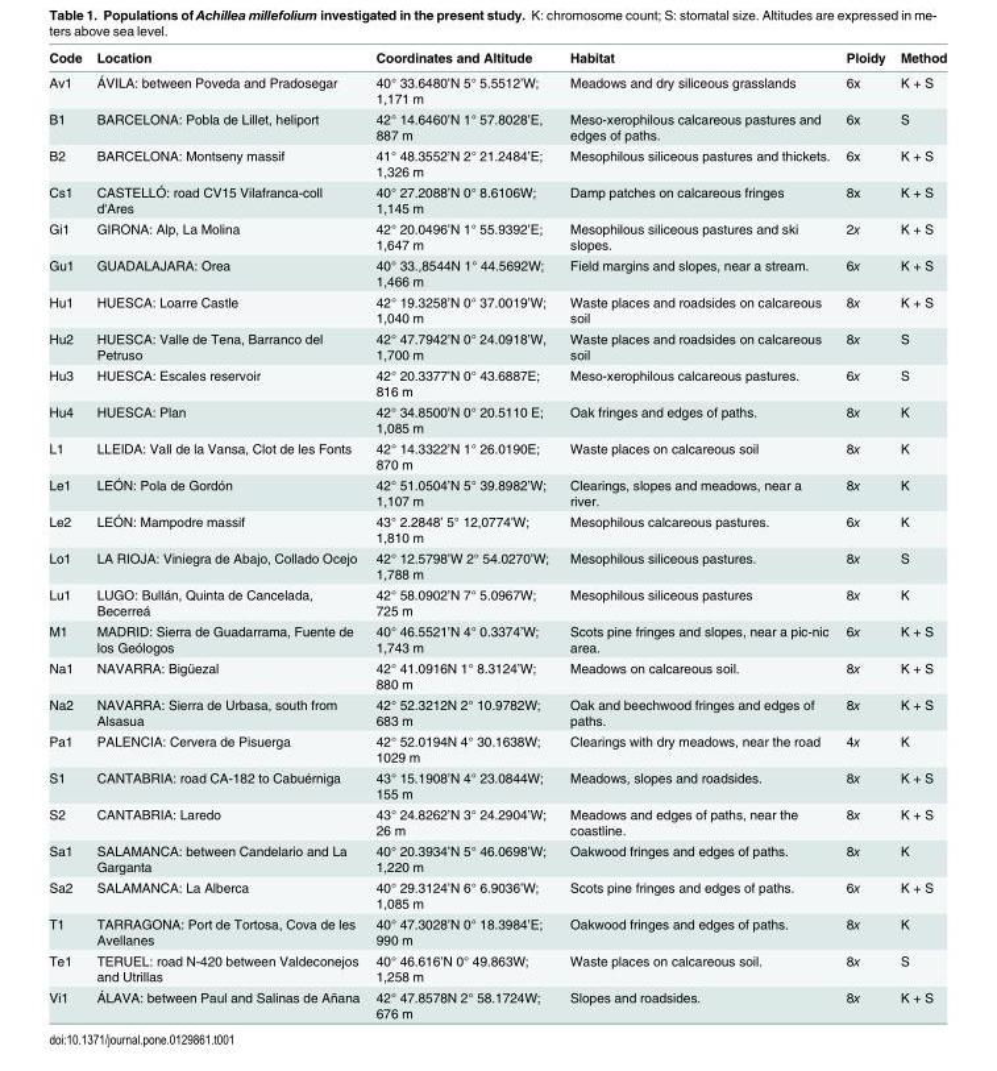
<table><thead><tr><td>Code</td><td>Location</td><td>Coordinates and Altitude</td><td>Habitat</td><td>Ploidy</td><td>Method</td></tr></thead><tbody><tr><td>Av1</td><td>ÁVILA: between Poveda and Pradosegar</td><td>40° 33.6480’N 5° 5.5512’W; 1,171 m</td><td>Meadows and dry siliceous grasslands</td><td>6x</td><td>K + S</td></tr><tr><td>B1</td><td>BARCELONA: Pobla de Lillet, heliport</td><td>42° 14.6460’N 1° 57.8028’E, 887 m</td><td>Meso-xerophilous calcareous pastures and edges of paths.</td><td>6x</td><td>S</td></tr><tr><td>B2</td><td>BARCELONA: Montseny massif</td><td>41° 48.3552’N 2° 21.2484’E; 1,326 m</td><td>Mesophilous siliceous pastures and thickets.</td><td>6x</td><td>K + S</td></tr><tr><td>Cs1</td><td>CASTELLÓ: road CV15 Vilafranca-coll d&#x27;Ares</td><td>40° 27.2088’N 0° 8.6106W; 1,145 m</td><td>Damp patches on calcareous fringes</td><td>8x</td><td>K + S</td></tr><tr><td>Gi1</td><td>GIRONA: Alp, La Molina</td><td>42° 20.0496’N 1° 55.9392’E; 1,647 m</td><td>Mesophilous siliceous pastures and ski slopes.</td><td>2x</td><td>K + S</td></tr><tr><td>Gu1</td><td>GUADALAJARA: Orea</td><td>40° 33.,8544N 1° 44.5692W; 1,466 m</td><td>Field margins and slopes, near a stream.</td><td>6x</td><td>K + S</td></tr><tr><td>Hu1</td><td>HUESCA: Loarre Castle</td><td>42° 19.3258’N 0° 37.0019’W; 1,040 m</td><td>Waste places and roadsides on calcareous soil</td><td>8x</td><td>K + S</td></tr><tr><td>Hu2</td><td>HUESCA: Valle de Tena, Barranco del Petruso</td><td>42° 47.7942’N 0° 24.0918’W, 1,700 m</td><td>Waste places and roadsides on calcareous soil</td><td>8x</td><td>S</td></tr><tr><td>Hu3</td><td>HUESCA: Escales reservoir</td><td>42° 20.3377’N 0° 43.6887E; 816 m</td><td>Meso-xerophilous calcareous pastures.</td><td>6x</td><td>S</td></tr><tr><td>Hu4</td><td>HUESCA: Plan</td><td>42° 34.8500’N 0° 20.5110 E; 1,085 m</td><td>Oak fringes and edges of paths.</td><td>8x</td><td>K</td></tr><tr><td>L1</td><td>LLEIDA: Vall de la Vansa, Clot de les Fonts</td><td>42° 14.3322’N 1° 26.0190E; 870 m</td><td>Waste places on calcareous soil</td><td>8x</td><td>K</td></tr><tr><td>Le1</td><td>LEÓN: Pola de Gordón</td><td>42° 51.0504’N 5° 39.8982’W; 1,107 m</td><td>Clearings, slopes and meadows, near a river.</td><td>8x</td><td>K</td></tr><tr><td>Le2</td><td>LEÓN: Mampodre massif</td><td>43° 2.2848’ 5° 12,0774’W; 1,810 m</td><td>Mesophilous calcareous pastures.</td><td>6x</td><td>K</td></tr><tr><td>Lo1</td><td>LA RIOJA: Viniegra de Abajo, Collado Ocejo</td><td>42° 12.5798’W 2° 54.0270’W; 1,788 m</td><td>Mesophilous siliceous pastures.</td><td>8x</td><td>S</td></tr><tr><td>Lu1</td><td>LUGO: Bullán, Quinta de Cancelada, Becerreá</td><td>42° 58.0902’N 7° 5.0967W; 725 m</td><td>Mesophilous siliceous pastures</td><td>8x</td><td>K</td></tr><tr><td>M1</td><td>MADRID: Sierra de Guadarrama, Fuente de los Geólogos</td><td>40° 46.5521’N 4° 0.3374’W; 1,743 m</td><td>Scots pine fringes and slopes, near a pic-nic area.</td><td>6x</td><td>K + S</td></tr><tr><td>Na1</td><td>NAVARRA: Bigüezal</td><td>42° 41.0916N 1° 8.3124’W; 880 m</td><td>Meadows on calcareous soil.</td><td>8x</td><td>K + S</td></tr><tr><td>Na2</td><td>NAVARRA: Sierra de Urbasa, south from Alsasua</td><td>42° 52.3212N 2° 10.9782W; 683 m</td><td>Oak and beechwood fringes and edges of paths.</td><td>8x</td><td>K + S</td></tr><tr><td>Pa1</td><td>PALENCIA: Cervera de Pisuerga</td><td>42° 52.0194N 4° 30.1638W; 1029 m</td><td>Clearings with dry meadows, near the road</td><td>4x</td><td>K</td></tr><tr><td>S1</td><td>CANTABRIA: road CA-182 to Cabuérniga</td><td>43° 15.1908’N 4° 23.0844W; 155 m</td><td>Meadows, slopes and roadsides.</td><td>8x</td><td>K + S</td></tr><tr><td>S2</td><td>CANTABRIA: Laredo</td><td>43° 24.8262’N 3° 24.2904’W; 26 m</td><td>Meadows and edges of paths, near the coastline.</td><td>8x</td><td>K + S</td></tr><tr><td>Sa1</td><td>SALAMANCA: between Candelario and La Garganta</td><td>40° 20.3934’N 5° 46.0698’W; 1,220 m</td><td>Oakwood fringes and edges of paths.</td><td>8x</td><td>K</td></tr><tr><td>Sa2</td><td>SALAMANCA: La Alberca</td><td>40° 29.3124’N 6° 6.9036’W; 1,085 m</td><td>Scots pine fringes and edges of paths.</td><td>6x</td><td>K + S</td></tr><tr><td>T1</td><td>TARRAGONA: Port de Tortosa, Cova de les Avellanes</td><td>40° 47.3028’N 0° 18.3984’E; 990 m</td><td>Oakwood fringes and edges of paths.</td><td>8x</td><td>K</td></tr><tr><td>Te1</td><td>TERUEL: road N-420 between Valdeconejos and Utrillas</td><td>40° 46.616’N 0° 49.863W; 1,258 m</td><td>Waste places on calcareous soil.</td><td>8x</td><td>S</td></tr><tr><td>Vi1</td><td>ÁLAVA: between Paul and Salinas de Añana</td><td>42° 47.8578N 2° 58.1724W; 676 m</td><td>Slopes and roadsides.</td><td>8x</td><td>K + S</td></tr></tbody></table>